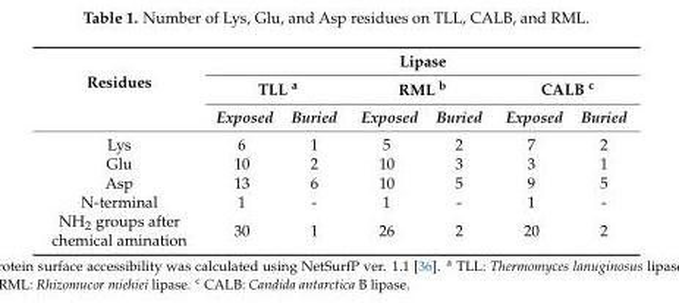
<table><thead><tr><td rowspan="3">Residues</td><td colspan="6">Lipase</td></tr><tr><td colspan="2">TLL <sup>a</sup></td><td colspan="2">RML <sup>b</sup></td><td colspan="2">CALB <sup>c</sup></td></tr><tr><td>Exposed</td><td>Buried</td><td>Exposed</td><td>Buried</td><td>Exposed</td><td>Buried</td></tr></thead><tbody><tr><td>Lys</td><td>6</td><td>1</td><td>5</td><td>2</td><td>7</td><td>2</td></tr><tr><td>Glu</td><td>10</td><td>2</td><td>10</td><td>3</td><td>3</td><td>1</td></tr><tr><td>Asp</td><td>13</td><td>6</td><td>10</td><td>5</td><td>9</td><td>5</td></tr><tr><td>N-terminal</td><td>1</td><td>-</td><td>1</td><td>-</td><td>1</td><td>-</td></tr><tr><td>NH<sub>2</sub> groups after chemical amination</td><td>30</td><td>1</td><td>26</td><td>2</td><td>20</td><td>2</td></tr></tbody></table>